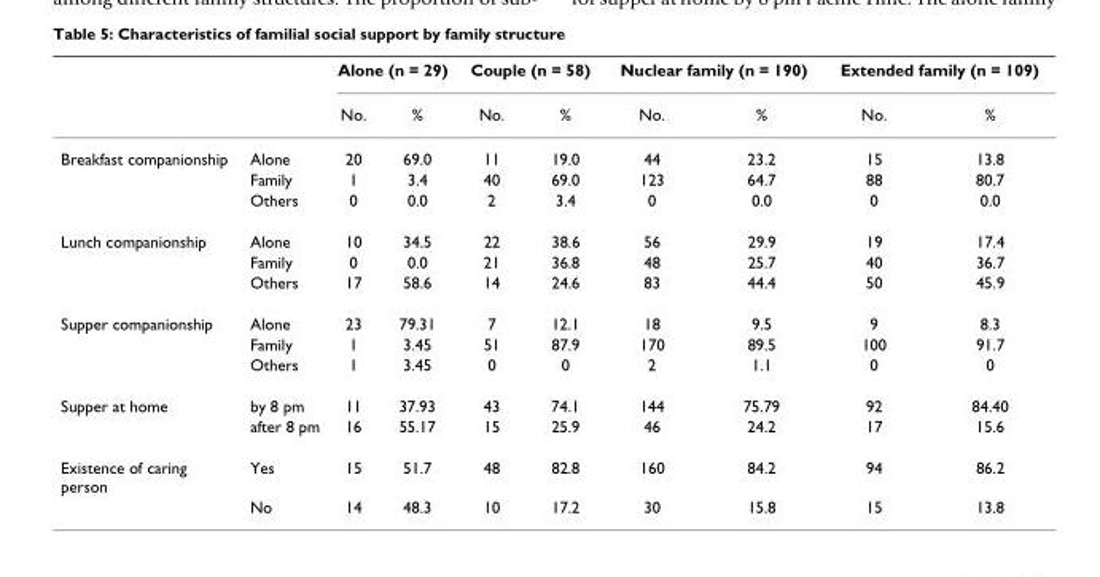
<table><thead><tr><td rowspan="2"></td><td rowspan="2"></td><td colspan="2">Alone (n = 29)</td><td colspan="2">Couple (n = 58)</td><td colspan="2">Nuclear family (n = 190)</td><td colspan="2">Extended family (n = 109)</td></tr><tr><td>No.</td><td>%</td><td>No.</td><td>%</td><td>No.</td><td>%</td><td>No.</td><td>%</td></tr></thead><tbody><tr><td rowspan="3">Breakfast companionship</td><td>Alone</td><td>20</td><td>69.0</td><td>11</td><td>19.0</td><td>44</td><td>23.2</td><td>15</td><td>13.8</td></tr><tr><td>Family</td><td>1</td><td>3.4</td><td>40</td><td>69.0</td><td>123</td><td>64.7</td><td>88</td><td>80.7</td></tr><tr><td>Others</td><td>0</td><td>0.0</td><td>2</td><td>3.4</td><td>0</td><td>0.0</td><td>0</td><td>0.0</td></tr><tr><td rowspan="3">Lunch companionship</td><td>Alone</td><td>10</td><td>34.5</td><td>22</td><td>38.6</td><td>56</td><td>29.9</td><td>19</td><td>17.4</td></tr><tr><td>Family</td><td>0</td><td>0.0</td><td>21</td><td>36.8</td><td>48</td><td>25.7</td><td>40</td><td>36.7</td></tr><tr><td>Others</td><td>17</td><td>58.6</td><td>14</td><td>24.6</td><td>83</td><td>44.4</td><td>50</td><td>45.9</td></tr><tr><td rowspan="3">Supper companionship</td><td>Alone</td><td>23</td><td>79.31</td><td>7</td><td>12.1</td><td>18</td><td>9.5</td><td>9</td><td>8.3</td></tr><tr><td>Family</td><td>1</td><td>3.45</td><td>51</td><td>87.9</td><td>170</td><td>89.5</td><td>100</td><td>91.7</td></tr><tr><td>Others</td><td>1</td><td>3.45</td><td>0</td><td>0</td><td>2</td><td>1.1</td><td>0</td><td>0</td></tr><tr><td rowspan="2">Supper at home</td><td>by 8 pm</td><td>11</td><td>37.93</td><td>43</td><td>74.1</td><td>144</td><td>75.79</td><td>92</td><td>84.40</td></tr><tr><td>after 8 pm</td><td>16</td><td>55.17</td><td>15</td><td>25.9</td><td>46</td><td>24.2</td><td>17</td><td>15.6</td></tr><tr><td rowspan="2">Existence of caring person</td><td>Yes</td><td>15</td><td>51.7</td><td>48</td><td>82.8</td><td>160</td><td>84.2</td><td>94</td><td>86.2</td></tr><tr><td>No</td><td>14</td><td>48.3</td><td>10</td><td>17.2</td><td>30</td><td>15.8</td><td>15</td><td>13.8</td></tr></tbody></table>